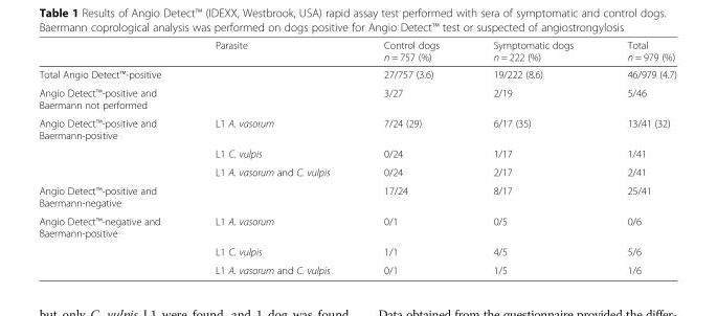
<table><thead><tr><td></td><td>Parasite</td><td>Control dogs n = 757 (%)</td><td>Symptomatic dogs n = 222 (%)</td><td>Total n = 979 (%)</td></tr></thead><tbody><tr><td>Total Angio Detect™-positive</td><td></td><td>27/757 (3.6)</td><td>19/222 (8.6)</td><td>46/979 (4.7)</td></tr><tr><td>Angio Detect™-positive and Baermann not performed</td><td></td><td>3/27</td><td>2/19</td><td>5/46</td></tr><tr><td rowspan="3">Angio Detect™-positive and Baermann-positive</td><td>L1 A. vasorum</td><td>7/24 (29)</td><td>6/17 (35)</td><td>13/41 (32)</td></tr><tr><td>L1 C. vulpis</td><td>0/24</td><td>1/17</td><td>1/41</td></tr><tr><td>L1 A. vasorum and C. vulpis</td><td>0/24</td><td>2/17</td><td>2/41</td></tr><tr><td>Angio Detect™-positive and Baermann-negative</td><td></td><td>17/24</td><td>8/17</td><td>25/41</td></tr><tr><td rowspan="3">Angio Detect™-negative and Baermann-positive</td><td>L1 A. vasorum</td><td>0/1</td><td>0/5</td><td>0/6</td></tr><tr><td>L1 C. vulpis</td><td>1/1</td><td>4/5</td><td>5/6</td></tr><tr><td>L1 A. vasorum and C. vulpis</td><td>0/1</td><td>1/5</td><td>1/6</td></tr></tbody></table>